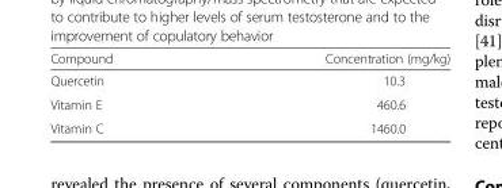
<table><thead><tr><td>Compound</td><td>Concentration (mg/kg)</td></tr></thead><tbody><tr><td>Quercetin</td><td>10.3</td></tr><tr><td>Vitamin E</td><td>460.6</td></tr><tr><td>Vitamin C</td><td>1460.0</td></tr></tbody></table>